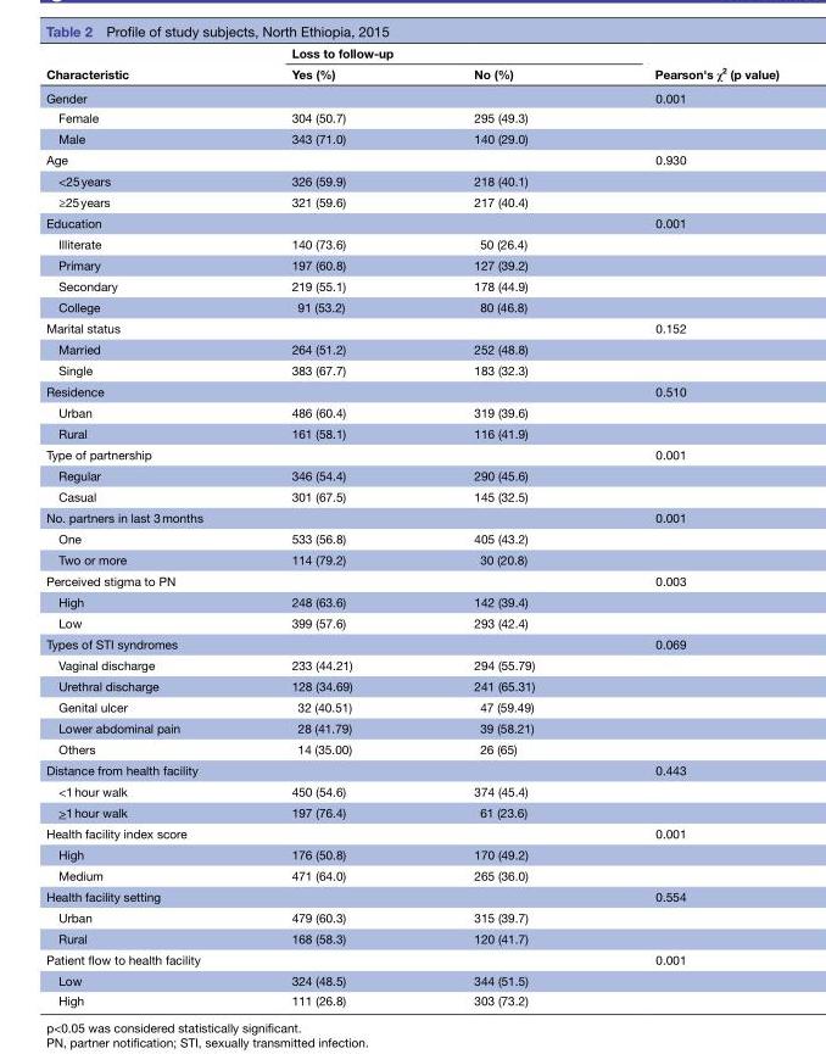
<table><thead><tr><td rowspan="2">Characteristic</td><td colspan="2">Loss to follow-up</td><td rowspan="2">Pearson&#x27;s χ<sup>2</sup> (p value)</td></tr><tr><td>Yes (%)</td><td>No (%)</td></tr></thead><tbody><tr><td>Gender</td><td></td><td></td><td>0.001</td></tr><tr><td>Female</td><td>304 (50.7)</td><td>295 (49.3)</td><td></td></tr><tr><td>Male</td><td>343 (71.0)</td><td>140 (29.0)</td><td></td></tr><tr><td>Age</td><td></td><td></td><td>0.930</td></tr><tr><td>&lt;25 years</td><td>326 (59.9)</td><td>218 (40.1)</td><td></td></tr><tr><td>≥25 years</td><td>321 (59.6)</td><td>217 (40.4)</td><td></td></tr><tr><td>Education</td><td></td><td></td><td>0.001</td></tr><tr><td>Illiterate</td><td>140 (73.6)</td><td>50 (26.4)</td><td></td></tr><tr><td>Primary</td><td>197 (60.8)</td><td>127 (39.2)</td><td></td></tr><tr><td>Secondary</td><td>219 (55.1)</td><td>178 (44.9)</td><td></td></tr><tr><td>College</td><td>91 (53.2)</td><td>80 (46.8)</td><td></td></tr><tr><td>Marital status</td><td></td><td></td><td>0.152</td></tr><tr><td>Married</td><td>264 (51.2)</td><td>252 (48.8)</td><td></td></tr><tr><td>Single</td><td>383 (67.7)</td><td>183 (32.3)</td><td></td></tr><tr><td>Residence</td><td></td><td></td><td>0.510</td></tr><tr><td>Urban</td><td>486 (60.4)</td><td>319 (39.6)</td><td></td></tr><tr><td>Rural</td><td>161 (58.1)</td><td>116 (41.9)</td><td></td></tr><tr><td>Type of partnership</td><td></td><td></td><td>0.001</td></tr><tr><td>Regular</td><td>346 (54.4)</td><td>290 (45.6)</td><td></td></tr><tr><td>Casual</td><td>301 (67.5)</td><td>145 (32.5)</td><td></td></tr><tr><td>No. partners in last 3 months</td><td></td><td></td><td>0.001</td></tr><tr><td>One</td><td>533 (56.8)</td><td>405 (43.2)</td><td></td></tr><tr><td>Two or more</td><td>114 (79.2)</td><td>30 (20.8)</td><td></td></tr><tr><td>Perceived stigma to PN</td><td></td><td></td><td>0.003</td></tr><tr><td>High</td><td>248 (63.6)</td><td>142 (39.4)</td><td></td></tr><tr><td>Low</td><td>399 (57.6)</td><td>293 (42.4)</td><td></td></tr><tr><td>Types of STI syndromes</td><td></td><td></td><td>0.069</td></tr><tr><td>Vaginal discharge</td><td>233 (44.21)</td><td>294 (55.79)</td><td></td></tr><tr><td>Urethral discharge</td><td>128 (34.69)</td><td>241 (65.31)</td><td></td></tr><tr><td>Genital ulcer</td><td>32 (40.51)</td><td>47 (59.49)</td><td></td></tr><tr><td>Lower abdominal pain</td><td>28 (41.79)</td><td>39 (58.21)</td><td></td></tr><tr><td>Others</td><td>14 (35.00)</td><td>26 (65)</td><td></td></tr><tr><td>Distance from health facility</td><td></td><td></td><td>0.443</td></tr><tr><td>&lt;1 hour walk</td><td>450 (54.6)</td><td>374 (45.4)</td><td></td></tr><tr><td>&gt;1 hour walk</td><td>197 (76.4)</td><td>61 (23.6)</td><td></td></tr><tr><td>Health facility index score</td><td></td><td></td><td>0.001</td></tr><tr><td>High</td><td>176 (50.8)</td><td>170 (49.2)</td><td></td></tr><tr><td>Medium</td><td>471 (64.0)</td><td>265 (36.0)</td><td></td></tr><tr><td>Health facility setting</td><td></td><td></td><td>0.554</td></tr><tr><td>Urban</td><td>479 (60.3)</td><td>315 (39.7)</td><td></td></tr><tr><td>Rural</td><td>168 (58.3)</td><td>120 (41.7)</td><td></td></tr><tr><td>Patient flow to health facility</td><td></td><td></td><td>0.001</td></tr><tr><td>Low</td><td>324 (48.5)</td><td>344 (51.5)</td><td></td></tr><tr><td>High</td><td>111 (26.8)</td><td>303 (73.2)</td><td></td></tr></tbody></table>